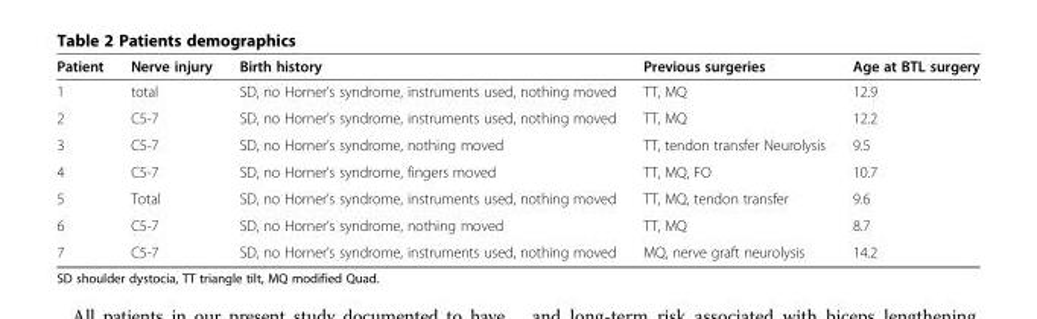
<table><thead><tr><td>Patient</td><td>Nerve injury</td><td>Birth history</td><td>Previous surgeries</td><td>Age at BTL surgery</td></tr></thead><tbody><tr><td>1</td><td>total</td><td>SD, no Horner’s syndrome, instruments used, nothing moved</td><td>TT, MQ</td><td>12.9</td></tr><tr><td>2</td><td>C5-7</td><td>SD, no Horner’s syndrome, instruments used, nothing moved</td><td>TT, MQ</td><td>12.2</td></tr><tr><td>3</td><td>C5-7</td><td>SD, no Horner’s syndrome, nothing moved</td><td>TT, tendon transfer Neurolysis</td><td>9.5</td></tr><tr><td>4</td><td>C5-7</td><td>SD, no Horner’s syndrome, fingers moved</td><td>TT, MQ, FO</td><td>10.7</td></tr><tr><td>5</td><td>Total</td><td>SD, no Horner’s syndrome, instruments used, nothing moved</td><td>TT, MQ, tendon transfer</td><td>9.6</td></tr><tr><td>6</td><td>C5-7</td><td>SD, no Horner’s syndrome, nothing moved</td><td>TT, MQ</td><td>8.7</td></tr><tr><td>7</td><td>C5-7</td><td>SD, no Horner’s syndrome, instruments used, nothing moved</td><td>MQ, nerve graft neurolysis</td><td>14.2</td></tr></tbody></table>